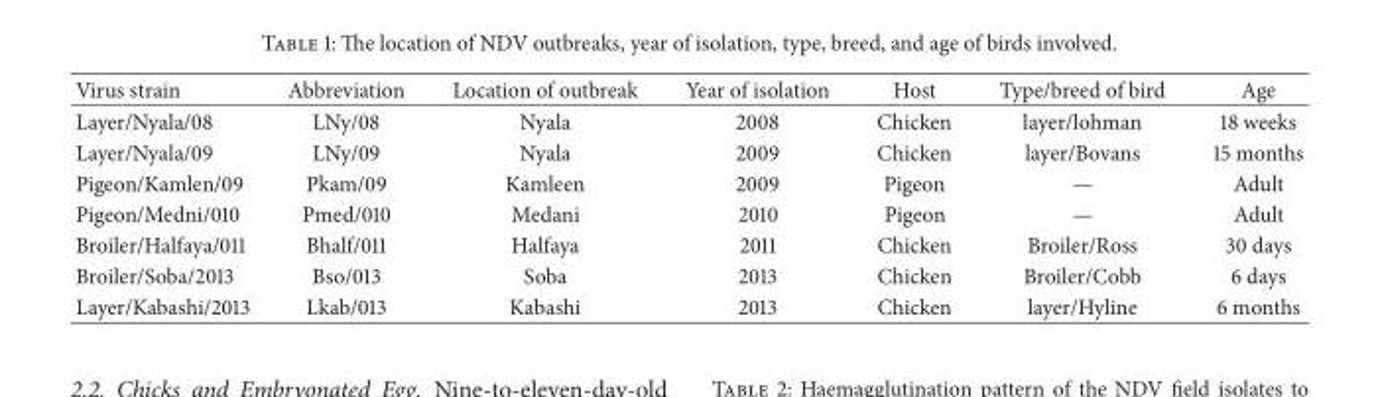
<table><thead><tr><td>Virus strain</td><td>Abbreviation</td><td>Location of outbreak</td><td>Year of isolation</td><td>Host</td><td>Type/breed of bird</td><td>Age</td></tr></thead><tbody><tr><td>Layer/Nyala/08</td><td>LNy/08</td><td>Nyala</td><td>2008</td><td>Chicken</td><td>layer/lohman</td><td>18 weeks</td></tr><tr><td>Layer/Nyala/09</td><td>LNy/09</td><td>Nyala</td><td>2009</td><td>Chicken</td><td>layer/Bovans</td><td>15 months</td></tr><tr><td>Pigeon/Kamlen/09</td><td>Pkam/09</td><td>Kamleen</td><td>2009</td><td>Pigeon</td><td>—</td><td>Adult</td></tr><tr><td>Pigeon/Medni/010</td><td>Pmed/010</td><td>Medani</td><td>2010</td><td>Pigeon</td><td>—</td><td>Adult</td></tr><tr><td>Broiler/Halfaya/011</td><td>Bhalf/011</td><td>Halfaya</td><td>2011</td><td>Chicken</td><td>Broiler/Ross</td><td>30 days</td></tr><tr><td>Broiler/Soba/2013</td><td>Bso/013</td><td>Soba</td><td>2013</td><td>Chicken</td><td>Broiler/Cobb</td><td>6 days</td></tr><tr><td>Layer/Kabashi/2013</td><td>Lkab/013</td><td>Kabashi</td><td>2013</td><td>Chicken</td><td>layer/Hyline</td><td>6 months</td></tr></tbody></table>